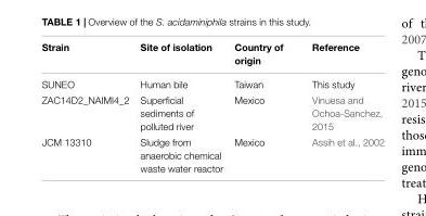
<table><thead><tr><td>Strain</td><td>Site of isolation</td><td>Country of origin</td><td>Reference</td></tr></thead><tbody><tr><td>SUNEO</td><td>Human bile</td><td>Taiwan</td><td>This study</td></tr><tr><td>ZAC14D2_NAIMI4_2</td><td>Superficial sediments of polluted river</td><td>Mexico</td><td>Vinuesa and Ochoa-Sanchez, 2015</td></tr><tr><td>JCM 13310</td><td>Sludge from anaerobic chemical waste water reactor</td><td>Mexico</td><td>Assih et al., 2002</td></tr></tbody></table>